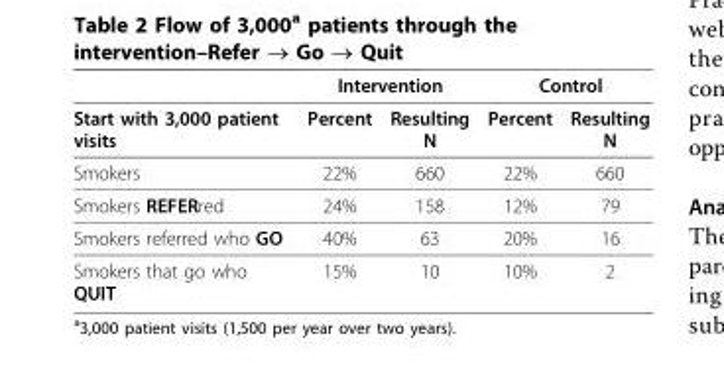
<table><thead><tr><td rowspan="2">Start with 3,000 patient visits</td><td colspan="2">Intervention</td><td colspan="2">Control</td></tr><tr><td>Percent</td><td>Resulting N</td><td>Percent</td><td>Resulting N</td></tr></thead><tbody><tr><td>Smokers</td><td>22%</td><td>660</td><td>22%</td><td>660</td></tr><tr><td>Smokers REFERred</td><td>24%</td><td>158</td><td>12%</td><td>79</td></tr><tr><td>Smokers referred who GO</td><td>40%</td><td>63</td><td>20%</td><td>16</td></tr><tr><td>Smokers that go who QUIT</td><td>15%</td><td>10</td><td>10%</td><td>2</td></tr></tbody></table>